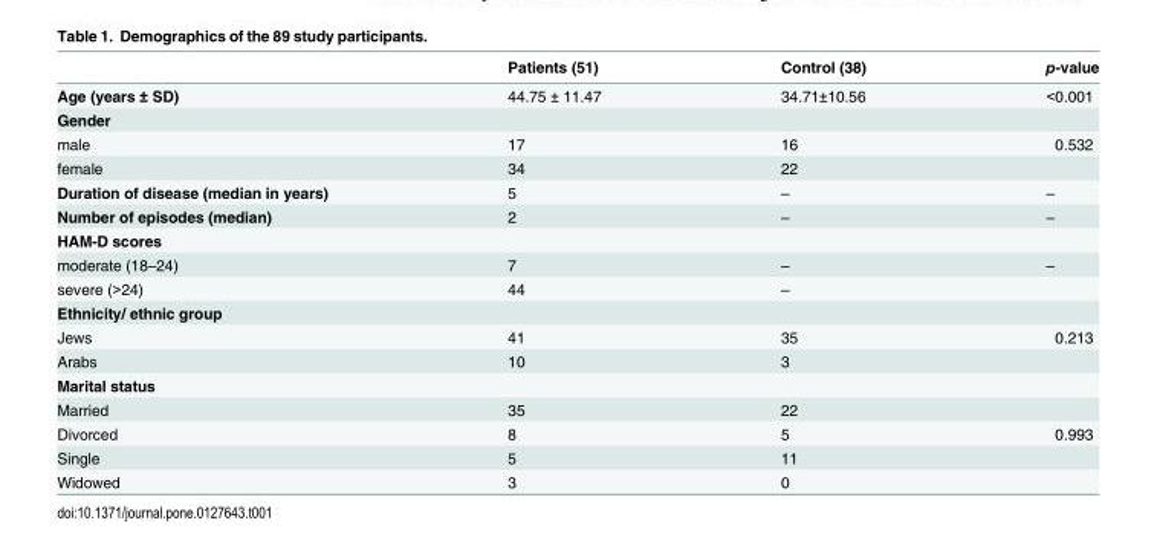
<table><thead><tr><td></td><td>Patients (51)</td><td>Control (38)</td><td>p-value</td></tr></thead><tbody><tr><td>Age (years ± SD)</td><td>44.75 ± 11.47</td><td>34.71±10.56</td><td>&lt;0.001</td></tr><tr><td colspan="4">Gender</td></tr><tr><td>male</td><td>17</td><td>16</td><td>0.532</td></tr><tr><td>female</td><td>34</td><td>22</td><td></td></tr><tr><td>Duration of disease (median in years)</td><td>5</td><td>–</td><td>–</td></tr><tr><td>Number of episodes (median)</td><td>2</td><td>–</td><td>–</td></tr><tr><td colspan="4">HAM-D scores</td></tr><tr><td>moderate (18–24)</td><td>7</td><td>–</td><td>–</td></tr><tr><td>severe (&gt;24)</td><td>44</td><td>–</td><td></td></tr><tr><td colspan="4">Ethnicity/ ethnic group</td></tr><tr><td>Jews</td><td>41</td><td>35</td><td>0.213</td></tr><tr><td>Arabs</td><td>10</td><td>3</td><td></td></tr><tr><td colspan="4">Marital status</td></tr><tr><td>Married</td><td>35</td><td>22</td><td></td></tr><tr><td>Divorced</td><td>8</td><td>5</td><td>0.993</td></tr><tr><td>Single</td><td>5</td><td>11</td><td></td></tr><tr><td>Widowed</td><td>3</td><td>0</td><td></td></tr></tbody></table>